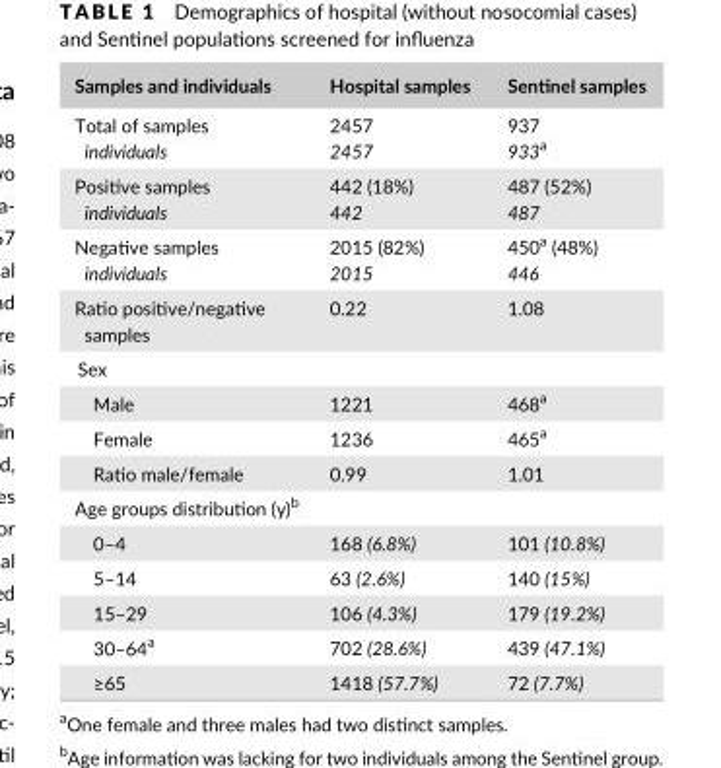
<table><thead><tr><td>Samples and individuals</td><td>Hospital samples</td><td>Sentinel samples</td></tr></thead><tbody><tr><td>Total of samples individuals</td><td>2457 2457</td><td>937 933a</td></tr><tr><td>Positive samples individuals</td><td>442 (18%) 442</td><td>487 (52%) 487</td></tr><tr><td>Negative samples individuals</td><td>2015 (82%) 2015</td><td>450<sup>a</sup> (48%) 446</td></tr><tr><td>Ratio positive/negative samples</td><td>0.22</td><td>1.08</td></tr><tr><td colspan="3">Sex</td></tr><tr><td>Male</td><td>1221</td><td>468<sup>a</sup></td></tr><tr><td>Female</td><td>1236</td><td>465<sup>a</sup></td></tr><tr><td>Ratio male/female</td><td>0.99</td><td>1.01</td></tr><tr><td colspan="3">Age groups distribution (y)<sup>b</sup></td></tr><tr><td>0–4</td><td>168 (6.8%)</td><td>101 (10.8%)</td></tr><tr><td>5–14</td><td>63 (2.6%)</td><td>140 (15%)</td></tr><tr><td>15–29</td><td>106 (4.3%)</td><td>179 (19.2%)</td></tr><tr><td>30–64<sup>a</sup></td><td>702 (28.6%)</td><td>439 (47.1%)</td></tr><tr><td>≥65</td><td>1418 (57.7%)</td><td>72 (7.7%)</td></tr></tbody></table>